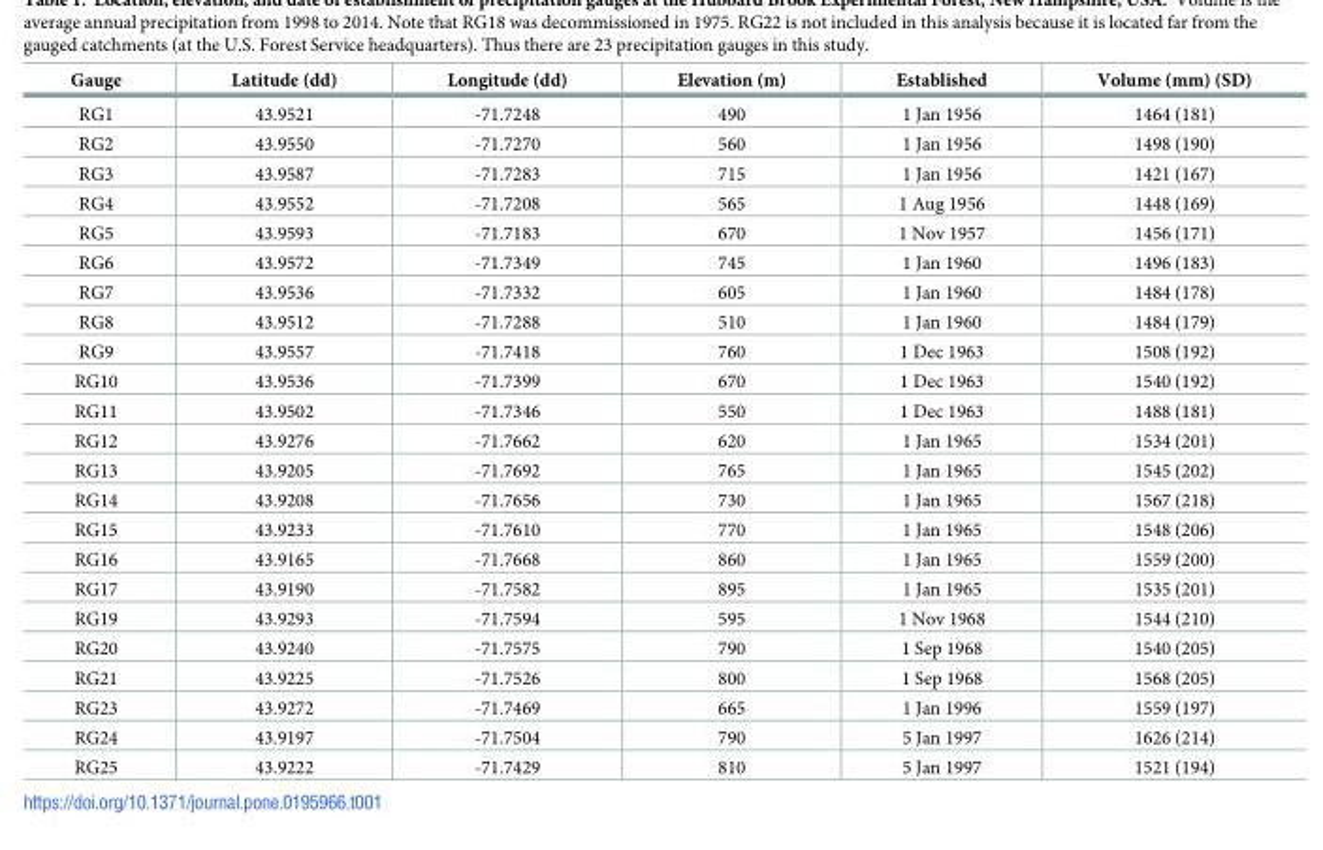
<table><thead><tr><td>Gauge</td><td>Latitude (dd)</td><td>Longitude (dd)</td><td>Elevation (m)</td><td>Established</td><td>Volume (mm) (SD)</td></tr></thead><tbody><tr><td>RG1</td><td>43.9521</td><td>-71.7248</td><td>490</td><td>1 Jan 1956</td><td>1464 (181)</td></tr><tr><td>RG2</td><td>43.9550</td><td>-71.7270</td><td>560</td><td>1 Jan 1956</td><td>1498 (190)</td></tr><tr><td>RG3</td><td>43.9587</td><td>-71.7283</td><td>715</td><td>1 Jan 1956</td><td>1421 (167)</td></tr><tr><td>RG4</td><td>43.9552</td><td>-71.7208</td><td>565</td><td>1 Aug 1956</td><td>1448 (169)</td></tr><tr><td>RG5</td><td>43.9593</td><td>-71.7183</td><td>670</td><td>1 Nov 1957</td><td>1456 (171)</td></tr><tr><td>RG6</td><td>43.9572</td><td>-71.7349</td><td>745</td><td>1 Jan 1960</td><td>1496 (183)</td></tr><tr><td>RG7</td><td>43.9536</td><td>-71.7332</td><td>605</td><td>1 Jan 1960</td><td>1484 (178)</td></tr><tr><td>RG8</td><td>43.9512</td><td>-71.7288</td><td>510</td><td>1 Jan 1960</td><td>1484 (179)</td></tr><tr><td>RG9</td><td>43.9557</td><td>-71.7418</td><td>760</td><td>1 Dec 1963</td><td>1508 (192)</td></tr><tr><td>RG10</td><td>43.9536</td><td>-71.7399</td><td>670</td><td>1 Dec 1963</td><td>1540 (192)</td></tr><tr><td>RG11</td><td>43.9502</td><td>-71.7346</td><td>550</td><td>1 Dec 1963</td><td>1488 (181)</td></tr><tr><td>RG12</td><td>43.9276</td><td>-71.7662</td><td>620</td><td>1 Jan 1965</td><td>1534 (201)</td></tr><tr><td>RG13</td><td>43.9205</td><td>-71.7692</td><td>765</td><td>1 Jan 1965</td><td>1545 (202)</td></tr><tr><td>RG14</td><td>43.9208</td><td>-71.7656</td><td>730</td><td>1 Jan 1965</td><td>1567 (218)</td></tr><tr><td>RG15</td><td>43.9233</td><td>-71.7610</td><td>770</td><td>1 Jan 1965</td><td>1548 (206)</td></tr><tr><td>RG16</td><td>43.9165</td><td>-71.7668</td><td>860</td><td>1 Jan 1965</td><td>1559 (200)</td></tr><tr><td>RG17</td><td>43.9190</td><td>-71.7582</td><td>895</td><td>1 Jan 1965</td><td>1535 (201)</td></tr><tr><td>RG19</td><td>43.9293</td><td>-71.7594</td><td>595</td><td>1 Nov 1968</td><td>1544 (210)</td></tr><tr><td>RG20</td><td>43.9240</td><td>-71.7575</td><td>790</td><td>1 Sep 1968</td><td>1540 (205)</td></tr><tr><td>RG21</td><td>43.9225</td><td>-71.7526</td><td>800</td><td>1 Sep 1968</td><td>1568 (205)</td></tr><tr><td>RG23</td><td>43.9272</td><td>-71.7469</td><td>665</td><td>1 Jan 1996</td><td>1559 (197)</td></tr><tr><td>RG24</td><td>43.9197</td><td>-71.7504</td><td>790</td><td>5 Jan 1997</td><td>1626 (214)</td></tr><tr><td>RG25</td><td>43.9222</td><td>-71.7429</td><td>810</td><td>5 Jan 1997</td><td>1521 (194)</td></tr></tbody></table>